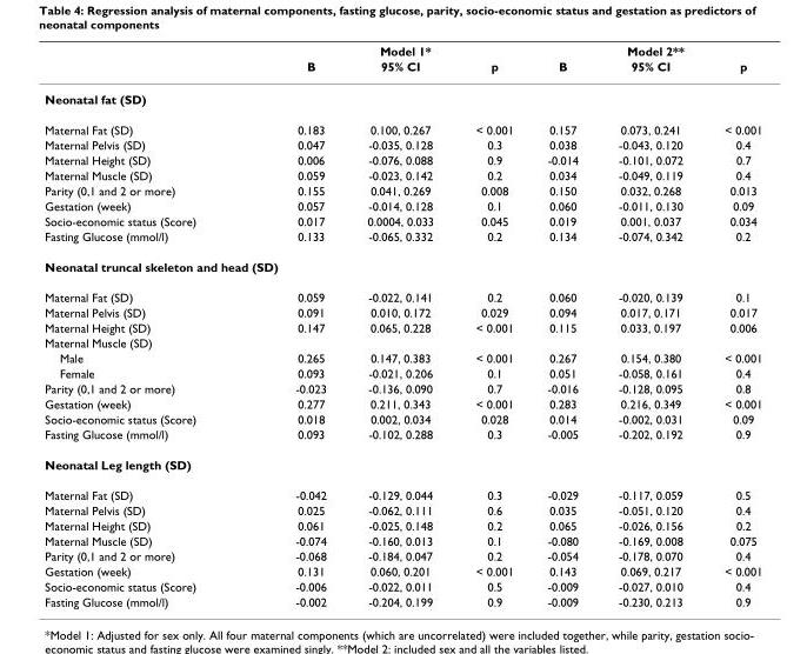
<table><thead><tr><td rowspan="2"></td><td colspan="3">Model 1*</td><td colspan="3">Model 2**</td></tr><tr><td>B</td><td>95% CI</td><td>p</td><td>B</td><td>95% CI</td><td>p</td></tr></thead><tbody><tr><td colspan="7">Neonatal fat (SD)</td></tr><tr><td>Maternal Fat (SD)</td><td>0.183</td><td>0.100, 0.267</td><td>&lt; 0.001</td><td>0.157</td><td>0.073, 0.241</td><td>&lt; 0.001</td></tr><tr><td>Maternal Pelvis (SD)</td><td>0.047</td><td>-0.035, 0.128</td><td>0.3</td><td>0.038</td><td>-0.043, 0.120</td><td>0.4</td></tr><tr><td>Maternal Height (SD)</td><td>0.006</td><td>-0.076, 0.088</td><td>0.9</td><td>-0.014</td><td>-0.101, 0.072</td><td>0.7</td></tr><tr><td>Maternal Muscle (SD)</td><td>0.059</td><td>-0.023, 0.142</td><td>0.2</td><td>0.034</td><td>-0.049, 0.119</td><td>0.4</td></tr><tr><td>Parity (0,1 and 2 or more)</td><td>0.155</td><td>0.041, 0.269</td><td>0.008</td><td>0.150</td><td>0.032, 0.268</td><td>0.013</td></tr><tr><td>Gestation (week)</td><td>0.057</td><td>-0.014, 0.128</td><td>0.1</td><td>0.060</td><td>-0.011, 0.130</td><td>0.09</td></tr><tr><td>Socio-economic status (Score)</td><td>0.017</td><td>0.0004, 0.033</td><td>0.045</td><td>0.019</td><td>0.001, 0.037</td><td>0.034</td></tr><tr><td>Fasting Glucose (mmol/l)</td><td>0.133</td><td>-0.065, 0.332</td><td>0.2</td><td>0.134</td><td>-0.074, 0.342</td><td>0.2</td></tr><tr><td colspan="7">Neonatal truncal skeleton and head (SD)</td></tr><tr><td>Maternal Fat (SD)</td><td>0.059</td><td>-0.022, 0.141</td><td>0.2</td><td>0.060</td><td>-0.020, 0.139</td><td>0.1</td></tr><tr><td>Maternal Pelvis (SD)</td><td>0.091</td><td>0.010, 0.172</td><td>0.029</td><td>0.094</td><td>0.017, 0.171</td><td>0.017</td></tr><tr><td>Maternal Height (SD)</td><td>0.147</td><td>0.065, 0.228</td><td>&lt; 0.001</td><td>0.115</td><td>0.033, 0.197</td><td>0.006</td></tr><tr><td colspan="7">Maternal Muscle (SD)</td></tr><tr><td>Male</td><td>0.265</td><td>0.147, 0.383</td><td>&lt; 0.001</td><td>0.267</td><td>0.154, 0.380</td><td>&lt; 0.001</td></tr><tr><td>Female</td><td>0.093</td><td>-0.021, 0.206</td><td>0.1</td><td>0.051</td><td>-0.058, 0.161</td><td>0.4</td></tr><tr><td>Parity (0,1 and 2 or more)</td><td>-0.023</td><td>-0.136, 0.090</td><td>0.7</td><td>-0.016</td><td>-0.128, 0.095</td><td>0.8</td></tr><tr><td>Gestation (week)</td><td>0.277</td><td>0.211, 0.343</td><td>&lt; 0.001</td><td>0.283</td><td>0.216, 0.349</td><td>&lt; 0.001</td></tr><tr><td>Socio-economic status (Score)</td><td>0.018</td><td>0.002, 0.034</td><td>0.028</td><td>0.014</td><td>-0.002, 0.031</td><td>0.09</td></tr><tr><td>Fasting Glucose (mmol/l)</td><td>0.093</td><td>-0.102, 0.288</td><td>0.3</td><td>-0.005</td><td>-0.202, 0.192</td><td>0.9</td></tr><tr><td colspan="7">Neonatal Leg length (SD)</td></tr><tr><td>Maternal Fat (SD)</td><td>-0.042</td><td>-0.129, 0.044</td><td>0.3</td><td>-0.029</td><td>-0.117, 0.059</td><td>0.5</td></tr><tr><td>Maternal Pelvis (SD)</td><td>0.025</td><td>-0.062, 0.111</td><td>0.6</td><td>0.035</td><td>-0.051, 0.120</td><td>0.4</td></tr><tr><td>Maternal Height (SD)</td><td>0.061</td><td>-0.025, 0.148</td><td>0.2</td><td>0.065</td><td>-0.026, 0.156</td><td>0.2</td></tr><tr><td>Maternal Muscle (SD)</td><td>-0.074</td><td>-0.160, 0.013</td><td>0.1</td><td>-0.080</td><td>-0.169, 0.008</td><td>0.075</td></tr><tr><td>Parity (0,1 and 2 or more)</td><td>-0.068</td><td>-0.184, 0.047</td><td>0.2</td><td>-0.054</td><td>-0.178, 0.070</td><td>0.4</td></tr><tr><td>Gestation (week)</td><td>0.131</td><td>0.060, 0.201</td><td>&lt; 0.001</td><td>0.143</td><td>0.069, 0.217</td><td>&lt; 0.001</td></tr><tr><td>Socio-economic status (Score)</td><td>-0.006</td><td>-0.022, 0.011</td><td>0.5</td><td>-0.009</td><td>-0.027, 0.010</td><td>0.4</td></tr><tr><td>Fasting Glucose (mmol/l)</td><td>-0.002</td><td>-0.204, 0.199</td><td>0.9</td><td>-0.009</td><td>-0.230, 0.213</td><td>0.9</td></tr></tbody></table>